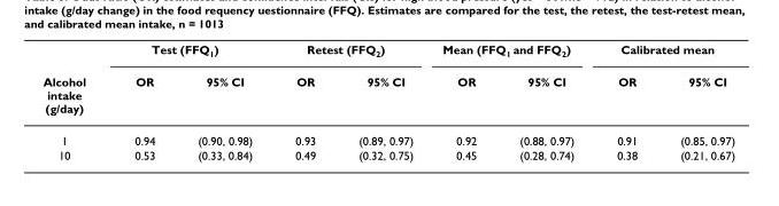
<table><thead><tr><td rowspan="2">Alcohol intake (g/day)</td><td colspan="2">Test (FFQ<sub>1</sub>)</td><td colspan="2">Retest (FFQ<sub>2</sub>)</td><td colspan="2">Mean (FFQ<sub>1</sub> and FFQ<sub>2</sub>)</td><td colspan="2">Calibrated mean</td></tr><tr><td>OR</td><td>95% CI</td><td>OR</td><td>95% CI</td><td>OR</td><td>95% CI</td><td>OR</td><td>95% CI</td></tr></thead><tbody><tr><td>1</td><td>0.94</td><td>(0.90, 0.98)</td><td>0.93</td><td>(0.89, 0.97)</td><td>0.92</td><td>(0.88, 0.97)</td><td>0.91</td><td>(0.85, 0.97)</td></tr><tr><td>10</td><td>0.53</td><td>(0.33, 0.84)</td><td>0.49</td><td>(0.32, 0.75)</td><td>0.45</td><td>(0.28, 0.74)</td><td>0.38</td><td>(0.21, 0.67)</td></tr></tbody></table>